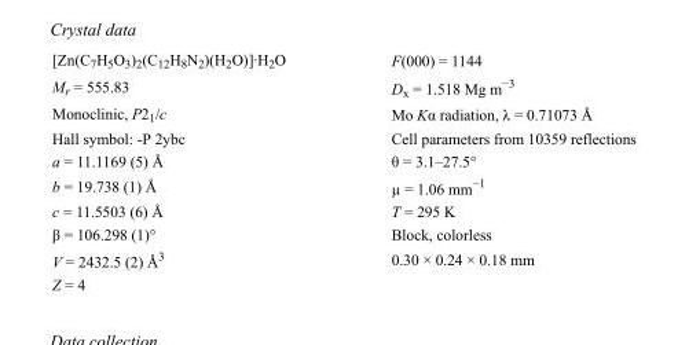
<table><tbody><tr><td>[Zn(C<sub>7</sub>H<sub>5</sub>O<sub>3</sub>)<sub>2</sub>(C<sub>12</sub>H<sub>8</sub>N<sub>2</sub>)(H<sub>2</sub>O)]·H<sub>2</sub>O</td><td>F(000) = 1144</td></tr><tr><td>M<sub>r</sub> = 555.83</td><td>D<sub>x</sub> = 1.518 Mg m<sup>−3</sup></td></tr><tr><td>Monoclinic, P2<sub>1</sub>/c</td><td>Mo Kα radiation, λ = 0.71073 Å</td></tr><tr><td>Hall symbol: -P 2ybc</td><td>Cell parameters from 10359 reflections</td></tr><tr><td>a = 11.1169 (5) Å</td><td>θ = 3.1–27.5°</td></tr><tr><td>b = 19.738 (1) Å</td><td>µ = 1.06 mm<sup>−1</sup></td></tr><tr><td>c = 11.5503 (6) Å</td><td>T = 295 K</td></tr><tr><td>β = 106.298 (1)°</td><td>Block, colorless</td></tr><tr><td>V = 2432.5 (2) Å<sup>3</sup></td><td>0.30 × 0.24 × 0.18 mm</td></tr><tr><td>Z = 4</td><td></td></tr></tbody></table>